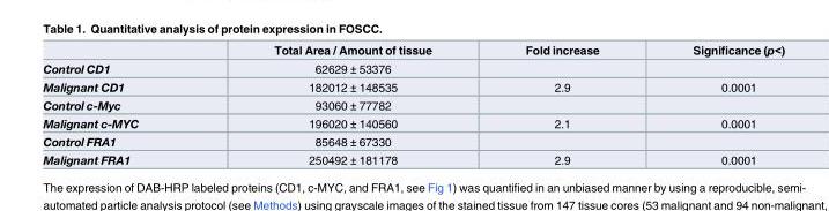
<table><thead><tr><td></td><td>Total Area / Amount of tissue</td><td>Fold increase</td><td>Significance (p&lt;)</td></tr></thead><tbody><tr><td>Control CD1</td><td>62629 ± 53376</td><td></td><td></td></tr><tr><td>Malignant CD1</td><td>182012 ± 148535</td><td>2.9</td><td>0.0001</td></tr><tr><td>Control c-Myc</td><td>93060 ± 77782</td><td></td><td></td></tr><tr><td>Malignant c-MYC</td><td>196020 ± 140560</td><td>2.1</td><td>0.0001</td></tr><tr><td>Control FRA1</td><td>85648 ± 67330</td><td></td><td></td></tr><tr><td>Malignant FRA1</td><td>250492 ± 181178</td><td>2.9</td><td>0.0001</td></tr></tbody></table>